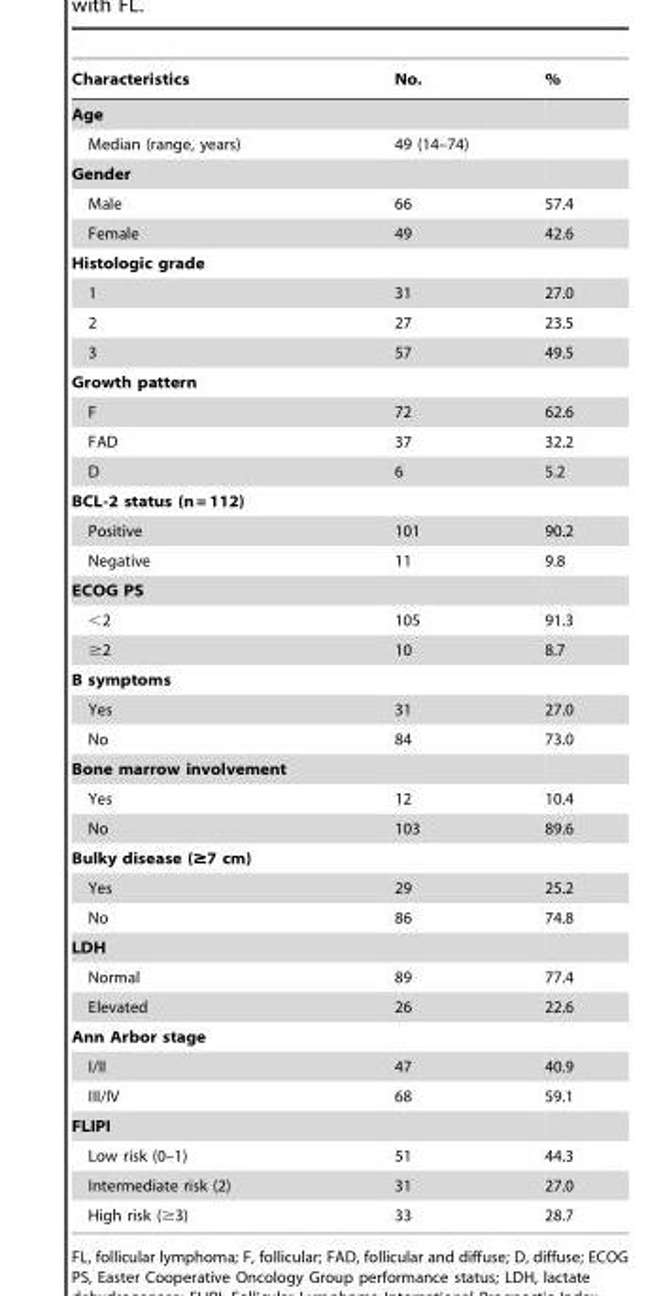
<table><thead><tr><td>Characteristics</td><td>No.</td><td>%</td></tr></thead><tbody><tr><td colspan="3">Age</td></tr><tr><td>Median (range, years)</td><td colspan="2">49 (14–74)</td></tr><tr><td colspan="3">Gender</td></tr><tr><td>Male</td><td>66</td><td>57.4</td></tr><tr><td>Female</td><td>49</td><td>42.6</td></tr><tr><td colspan="3">Histologic grade</td></tr><tr><td>1</td><td>31</td><td>27.0</td></tr><tr><td>2</td><td>27</td><td>23.5</td></tr><tr><td>3</td><td>57</td><td>49.5</td></tr><tr><td colspan="3">Growth pattern</td></tr><tr><td>F</td><td>72</td><td>62.6</td></tr><tr><td>FAD</td><td>37</td><td>32.2</td></tr><tr><td>D</td><td>6</td><td>5.2</td></tr><tr><td colspan="3">BCL-2 status (n = 112)</td></tr><tr><td>Positive</td><td>101</td><td>90.2</td></tr><tr><td>Negative</td><td>11</td><td>9.8</td></tr><tr><td colspan="3">ECOG PS</td></tr><tr><td>&lt;2</td><td>105</td><td>91.3</td></tr><tr><td>≥2</td><td>10</td><td>8.7</td></tr><tr><td colspan="3">B symptoms</td></tr><tr><td>Yes</td><td>31</td><td>27.0</td></tr><tr><td>No</td><td>84</td><td>73.0</td></tr><tr><td colspan="3">Bone marrow involvement</td></tr><tr><td>Yes</td><td>12</td><td>10.4</td></tr><tr><td>No</td><td>103</td><td>89.6</td></tr><tr><td colspan="3">Bulky disease (≥7 cm)</td></tr><tr><td>Yes</td><td>29</td><td>25.2</td></tr><tr><td>No</td><td>86</td><td>74.8</td></tr><tr><td colspan="3">LDH</td></tr><tr><td>Normal</td><td>89</td><td>77.4</td></tr><tr><td>Elevated</td><td>26</td><td>22.6</td></tr><tr><td colspan="3">Ann Arbor stage</td></tr><tr><td>I/II</td><td>47</td><td>40.9</td></tr><tr><td>III/IV</td><td>68</td><td>59.1</td></tr><tr><td colspan="3">FLIPI</td></tr><tr><td>Low risk (0–1)</td><td>51</td><td>44.3</td></tr><tr><td>Intermediate risk (2)</td><td>31</td><td>27.0</td></tr><tr><td>High risk (≥3)</td><td>33</td><td>28.7</td></tr></tbody></table>